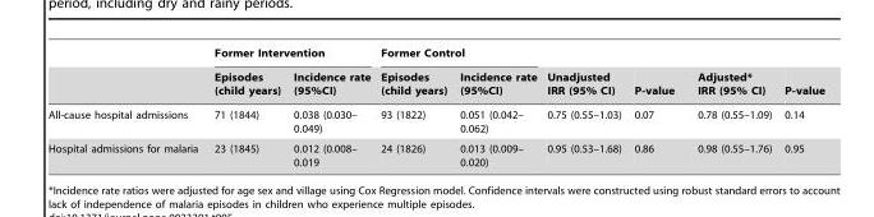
<table><thead><tr><td rowspan="2"></td><td colspan="2">Former Intervention</td><td colspan="2">Former Control</td><td rowspan="2">Unadjusted IRR (95% CI)</td><td rowspan="2">P-value</td><td rowspan="2">Adjusted* IRR (95% CI)</td><td rowspan="2">P-value</td></tr><tr><td>Episodes (child years)</td><td>Incidence rate (95%CI)</td><td>Episodes (child years)</td><td>Incidence rate (95%CI)</td></tr></thead><tbody><tr><td>All-cause hospital admissions</td><td>71 (1844)</td><td>0.038 (0.030– 0.049)</td><td>93 (1822)</td><td>0.051 (0.042– 0.062)</td><td>0.75 (0.55–1.03)</td><td>0.07</td><td>0.78 (0.55–1.09)</td><td>0.14</td></tr><tr><td>Hospital admissions for malaria</td><td>23 (1845)</td><td>0.012 (0.008– 0.019</td><td>24 (1826)</td><td>0.013 (0.009– 0.020)</td><td>0.95 (0.53–1.68)</td><td>0.86</td><td>0.98 (0.55–1.76)</td><td>0.95</td></tr></tbody></table>